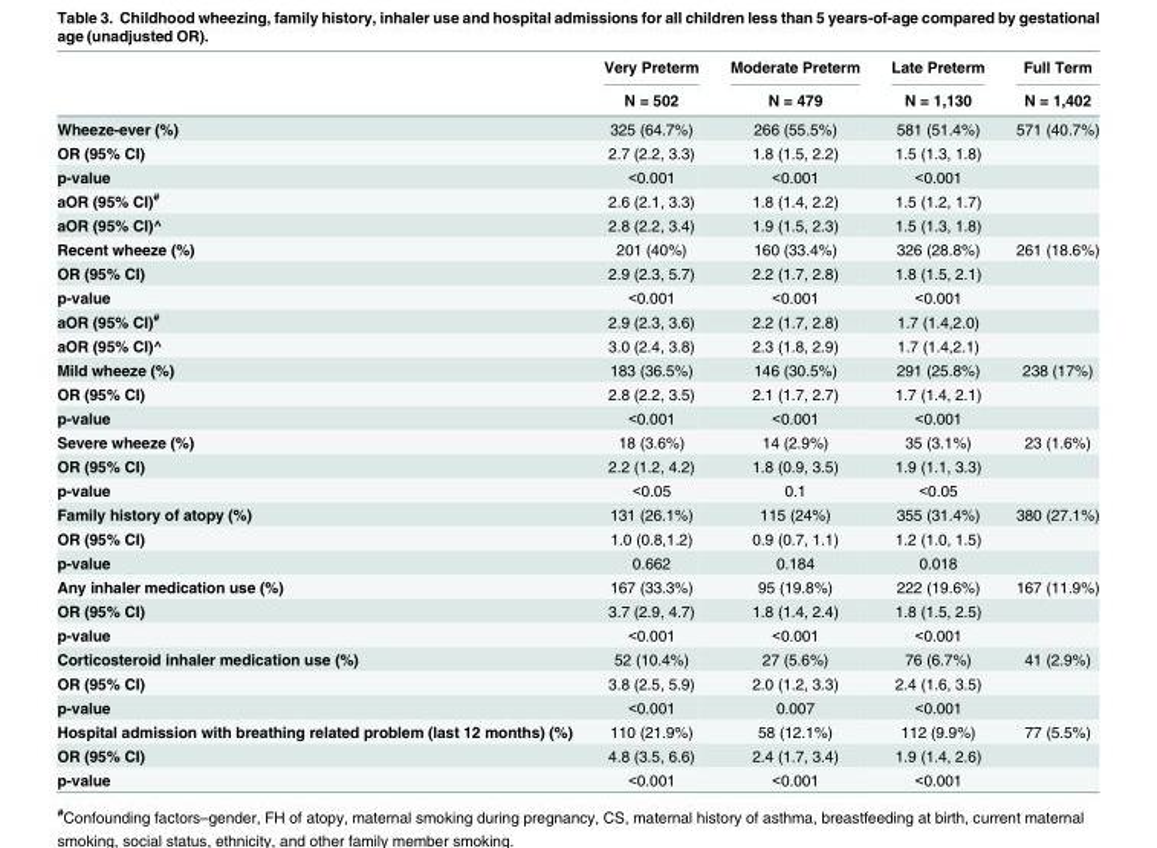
<table><thead><tr><td rowspan="2"></td><td rowspan="2">Very Preterm N = 502</td><td rowspan="2">Moderate Preterm N = 479</td><td rowspan="2">Late Preterm N = 1,130</td><td rowspan="2">Full Term N = 1,402</td></tr><tr></tr></thead><tbody><tr><td>Wheeze-ever (%)</td><td>325 (64.7%)</td><td>266 (55.5%)</td><td>581 (51.4%)</td><td>571 (40.7%)</td></tr><tr><td>OR (95% CI)</td><td>2.7 (2.2, 3.3)</td><td>1.8 (1.5, 2.2)</td><td>1.5 (1.3, 1.8)</td><td></td></tr><tr><td>p-value</td><td>&lt;0.001</td><td>&lt;0.001</td><td>&lt;0.001</td><td></td></tr><tr><td>aOR (95% CI)<sup>#</sup></td><td>2.6 (2.1, 3.3)</td><td>1.8 (1.4, 2.2)</td><td>1.5 (1.2, 1.7)</td><td></td></tr><tr><td>aOR (95% CI)^</td><td>2.8 (2.2, 3.4)</td><td>1.9 (1.5, 2.3)</td><td>1.5 (1.3, 1.8)</td><td></td></tr><tr><td>Recent wheeze (%)</td><td>201 (40%)</td><td>160 (33.4%)</td><td>326 (28.8%)</td><td>261 (18.6%)</td></tr><tr><td>OR (95% CI)</td><td>2.9 (2.3, 5.7)</td><td>2.2 (1.7, 2.8)</td><td>1.8 (1.5, 2.1)</td><td></td></tr><tr><td>p-value</td><td>&lt;0.001</td><td>&lt;0.001</td><td>&lt;0.001</td><td></td></tr><tr><td>aOR (95% CI)<sup>#</sup></td><td>2.9 (2.3, 3.6)</td><td>2.2 (1.7, 2.8)</td><td>1.7 (1.4,2.0)</td><td></td></tr><tr><td>aOR (95% CI)^</td><td>3.0 (2.4, 3.8)</td><td>2.3 (1.8, 2.9)</td><td>1.7 (1.4,2.1)</td><td></td></tr><tr><td>Mild wheeze (%)</td><td>183 (36.5%)</td><td>146 (30.5%)</td><td>291 (25.8%)</td><td>238 (17%)</td></tr><tr><td>OR (95% CI)</td><td>2.8 (2.2, 3.5)</td><td>2.1 (1.7, 2.7)</td><td>1.7 (1.4, 2.1)</td><td></td></tr><tr><td>p-value</td><td>&lt;0.001</td><td>&lt;0.001</td><td>&lt;0.001</td><td></td></tr><tr><td>Severe wheeze (%)</td><td>18 (3.6%)</td><td>14 (2.9%)</td><td>35 (3.1%)</td><td>23 (1.6%)</td></tr><tr><td>OR (95% CI)</td><td>2.2 (1.2, 4.2)</td><td>1.8 (0.9, 3.5)</td><td>1.9 (1.1, 3.3)</td><td></td></tr><tr><td>p-value</td><td>&lt;0.05</td><td>0.1</td><td>&lt;0.05</td><td></td></tr><tr><td>Family history of atopy (%)</td><td>131 (26.1%)</td><td>115 (24%)</td><td>355 (31.4%)</td><td>380 (27.1%)</td></tr><tr><td>OR (95% CI)</td><td>1.0 (0.8,1.2)</td><td>0.9 (0.7, 1.1)</td><td>1.2 (1.0, 1.5)</td><td></td></tr><tr><td>p-value</td><td>0.662</td><td>0.184</td><td>0.018</td><td></td></tr><tr><td>Any inhaler medication use (%)</td><td>167 (33.3%)</td><td>95 (19.8%)</td><td>222 (19.6%)</td><td>167 (11.9%)</td></tr><tr><td>OR (95% CI)</td><td>3.7 (2.9, 4.7)</td><td>1.8 (1.4, 2.4)</td><td>1.8 (1.5, 2.5)</td><td></td></tr><tr><td>p-value</td><td>&lt;0.001</td><td>&lt;0.001</td><td>&lt;0.001</td><td></td></tr><tr><td>Corticosteroid inhaler medication use (%)</td><td>52 (10.4%)</td><td>27 (5.6%)</td><td>76 (6.7%)</td><td>41 (2.9%)</td></tr><tr><td>OR (95% CI)</td><td>3.8 (2.5, 5.9)</td><td>2.0 (1.2, 3.3)</td><td>2.4 (1.6, 3.5)</td><td></td></tr><tr><td>p-value</td><td>&lt;0.001</td><td>0.007</td><td>&lt;0.001</td><td></td></tr><tr><td>Hospital admission with breathing related problem (last 12 months) (%)</td><td>110 (21.9%)</td><td>58 (12.1%)</td><td>112 (9.9%)</td><td>77 (5.5%)</td></tr><tr><td>OR (95% CI)</td><td>4.8 (3.5, 6.6)</td><td>2.4 (1.7, 3.4)</td><td>1.9 (1.4, 2.6)</td><td></td></tr><tr><td>p-value</td><td>&lt;0.001</td><td>&lt;0.001</td><td>&lt;0.001</td><td></td></tr></tbody></table>